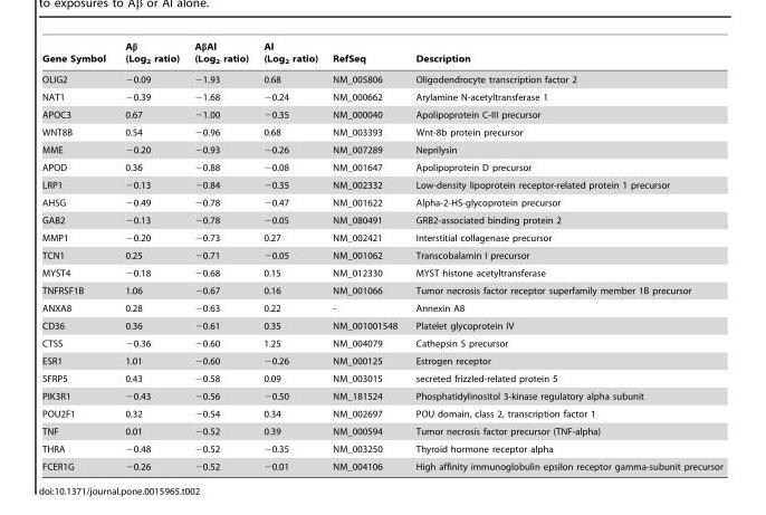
<table><thead><tr><td>Gene Symbol</td><td>Aβ (Log<sub>2</sub> ratio)</td><td>AβAl (Log<sub>2</sub> ratio)</td><td>Al (Log<sub>2</sub> ratio)</td><td>RefSeq</td><td>Description</td></tr></thead><tbody><tr><td>OLIG2</td><td>−0.09</td><td>−1.93</td><td>0.68</td><td>NM_005806</td><td>Oligodendrocyte transcription factor 2</td></tr><tr><td>NAT1</td><td>−0.39</td><td>−1.68</td><td>−0.24</td><td>NM_000662</td><td>Arylamine N-acetyltransferase 1</td></tr><tr><td>APOC3</td><td>0.67</td><td>−1.00</td><td>−0.35</td><td>NM_000040</td><td>Apolipoprotein C-III precursor</td></tr><tr><td>WNT8B</td><td>0.54</td><td>−0.96</td><td>0.68</td><td>NM_003393</td><td>Wnt-8b protein precursor</td></tr><tr><td>MME</td><td>−0.20</td><td>−0.93</td><td>−0.26</td><td>NM_007289</td><td>Neprilysin</td></tr><tr><td>APOD</td><td>0.36</td><td>−0.88</td><td>−0.08</td><td>NM_001647</td><td>Apolipoprotein D precursor</td></tr><tr><td>LRP1</td><td>−0.13</td><td>−0.84</td><td>−0.35</td><td>NM_002332</td><td>Low-density lipoprotein receptor-related protein 1 precursor</td></tr><tr><td>AHSG</td><td>−0.49</td><td>−0.78</td><td>−0.47</td><td>NM_001622</td><td>Alpha-2-HS-glycoprotein precursor</td></tr><tr><td>GAB2</td><td>−0.13</td><td>−0.78</td><td>−0.05</td><td>NM_080491</td><td>GRB2-associated binding protein 2</td></tr><tr><td>MMP1</td><td>−0.20</td><td>−0.73</td><td>0.27</td><td>NM_002421</td><td>Interstitial collagenase precursor</td></tr><tr><td>TCN1</td><td>0.25</td><td>−0.71</td><td>−0.05</td><td>NM_001062</td><td>Transcobalamin I precursor</td></tr><tr><td>MYST4</td><td>−0.18</td><td>−0.68</td><td>0.15</td><td>NM_012330</td><td>MYST histone acetyltransferase</td></tr><tr><td>TNFRSF1B</td><td>1.06</td><td>−0.67</td><td>0.16</td><td>NM_001066</td><td>Tumor necrosis factor receptor superfamily member 1B precursor</td></tr><tr><td>ANXA8</td><td>0.28</td><td>−0.63</td><td>0.22</td><td>-</td><td>Annexin A8</td></tr><tr><td>CD36</td><td>0.36</td><td>−0.61</td><td>0.35</td><td>NM_001001548</td><td>Platelet glycoprotein IV</td></tr><tr><td>CTSS</td><td>−0.36</td><td>−0.60</td><td>1.25</td><td>NM_004079</td><td>Cathepsin S precursor</td></tr><tr><td>ESR1</td><td>1.01</td><td>−0.60</td><td>−0.26</td><td>NM_000125</td><td>Estrogen receptor</td></tr><tr><td>SFRP5</td><td>0.43</td><td>−0.58</td><td>0.09</td><td>NM_003015</td><td>secreted frizzled-related protein 5</td></tr><tr><td>PIK3R1</td><td>−0.43</td><td>−0.56</td><td>−0.50</td><td>NM_181524</td><td>Phosphatidylinositol 3-kinase regulatory alpha subunit</td></tr><tr><td>POU2F1</td><td>0.32</td><td>−0.54</td><td>0.34</td><td>NM_002697</td><td>POU domain, class 2, transcription factor 1</td></tr><tr><td>TNF</td><td>0.01</td><td>−0.52</td><td>0.39</td><td>NM_000594</td><td>Tumor necrosis factor precursor (TNF-alpha)</td></tr><tr><td>THRA</td><td>−0.48</td><td>−0.52</td><td>−0.35</td><td>NM_003250</td><td>Thyroid hormone receptor alpha</td></tr><tr><td>FCER1G</td><td>−0.26</td><td>−0.52</td><td>−0.01</td><td>NM_004106</td><td>High affinity immunoglobulin epsilon receptor gamma-subunit precursor</td></tr></tbody></table>